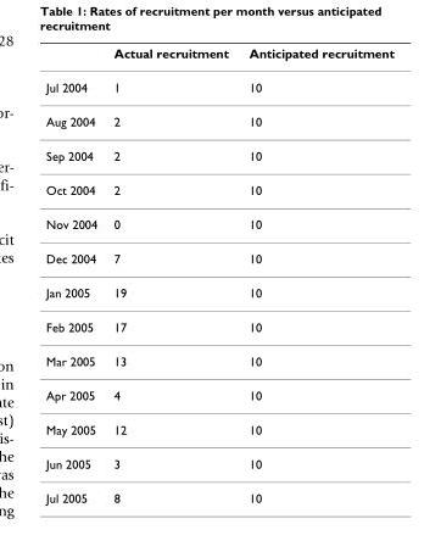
<table><thead><tr><td></td><td>Actual recruitment</td><td>Anticipated recruitment</td></tr></thead><tbody><tr><td>Jul 2004</td><td>1</td><td>10</td></tr><tr><td>Aug 2004</td><td>2</td><td>10</td></tr><tr><td>Sep 2004</td><td>2</td><td>10</td></tr><tr><td>Oct 2004</td><td>2</td><td>10</td></tr><tr><td>Nov 2004</td><td>0</td><td>10</td></tr><tr><td>Dec 2004</td><td>7</td><td>10</td></tr><tr><td>Jan 2005</td><td>19</td><td>10</td></tr><tr><td>Feb 2005</td><td>17</td><td>10</td></tr><tr><td>Mar 2005</td><td>13</td><td>10</td></tr><tr><td>Apr 2005</td><td>4</td><td>10</td></tr><tr><td>May 2005</td><td>12</td><td>10</td></tr><tr><td>Jun 2005</td><td>3</td><td>10</td></tr><tr><td>Jul 2005</td><td>8</td><td>10</td></tr></tbody></table>